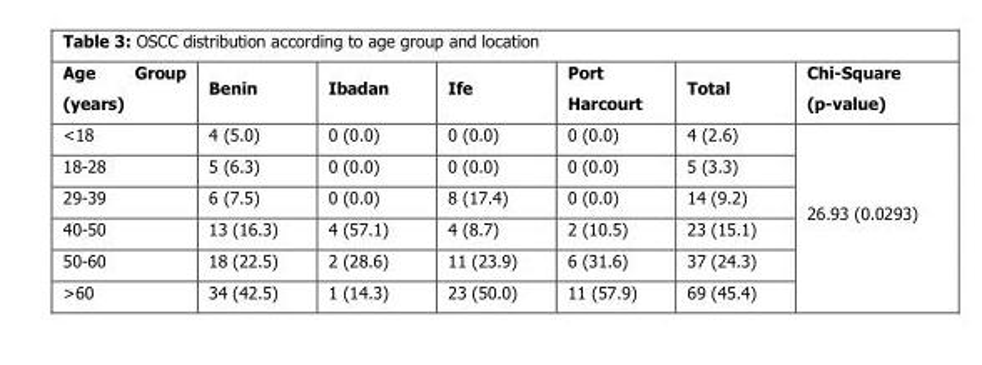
<table><thead><tr><td>Age Group (years)</td><td>Benin</td><td>Ibadan</td><td>Ife</td><td>Port Harcourt</td><td>Total</td><td>Chi-Square (p-value)</td></tr></thead><tbody><tr><td>&lt;18</td><td>4 (5.0)</td><td>0 (0.0)</td><td>0 (0.0)</td><td>0 (0.0)</td><td>4 (2.6)</td><td rowspan="6">26.93 (0.0293)</td></tr><tr><td>18-28</td><td>5 (6.3)</td><td>0 (0.0)</td><td>0 (0.0)</td><td>0 (0.0)</td><td>5 (3.3)</td></tr><tr><td>29-39</td><td>6 (7.5)</td><td>0 (0.0)</td><td>8 (17.4)</td><td>0 (0.0)</td><td>14 (9.2)</td></tr><tr><td>40-50</td><td>13 (16.3)</td><td>4 (57.1)</td><td>4 (8.7)</td><td>2 (10.5)</td><td>23 (15.1)</td></tr><tr><td>50-60</td><td>18 (22.5)</td><td>2 (28.6)</td><td>11 (23.9)</td><td>6 (31.6)</td><td>37 (24.3)</td></tr><tr><td>&gt;60</td><td>34 (42.5)</td><td>1 (14.3)</td><td>23 (50.0)</td><td>11 (57.9)</td><td>69 (45.4)</td></tr></tbody></table>